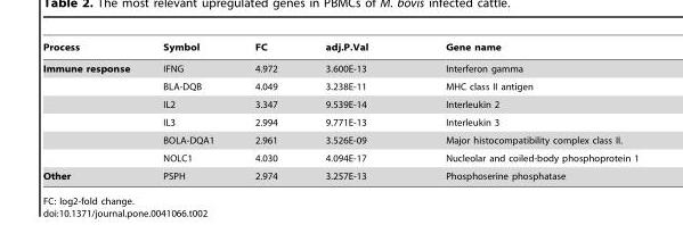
<table><thead><tr><td>Process</td><td>Symbol</td><td>FC</td><td>adj.P.Val</td><td>Gene name</td></tr></thead><tbody><tr><td rowspan="6">Immune response</td><td>IFNG</td><td>4.972</td><td>3.600E-13</td><td>Interferon gamma</td></tr><tr><td>BLA-DQB</td><td>4.049</td><td>3.238E-11</td><td>MHC class II antigen</td></tr><tr><td>IL2</td><td>3.347</td><td>9.539E-14</td><td>Interleukin 2</td></tr><tr><td>IL3</td><td>2.994</td><td>9.771E-13</td><td>Interleukin 3</td></tr><tr><td>BOLA-DQA1</td><td>2.961</td><td>3.526E-09</td><td>Major histocompatibility complex class II.</td></tr><tr><td>NOLC1</td><td>4.030</td><td>4.094E-17</td><td>Nucleolar and coiled-body phosphoprotein 1</td></tr><tr><td>Other</td><td>PSPH</td><td>2.974</td><td>3.257E-13</td><td>Phosphoserine phosphatase</td></tr></tbody></table>